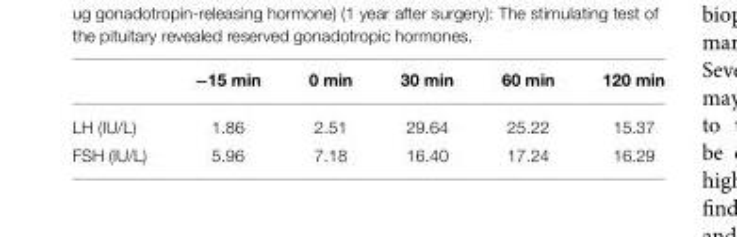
<table><thead><tr><td></td><td>−15 min</td><td>0 min</td><td>30 min</td><td>60 min</td><td>120 min</td></tr></thead><tbody><tr><td>LH (IU/L)</td><td>1.86</td><td>2.51</td><td>29.64</td><td>25.22</td><td>15.37</td></tr><tr><td>FSH (IU/L)</td><td>5.96</td><td>7.18</td><td>16.40</td><td>17.24</td><td>16.29</td></tr></tbody></table>